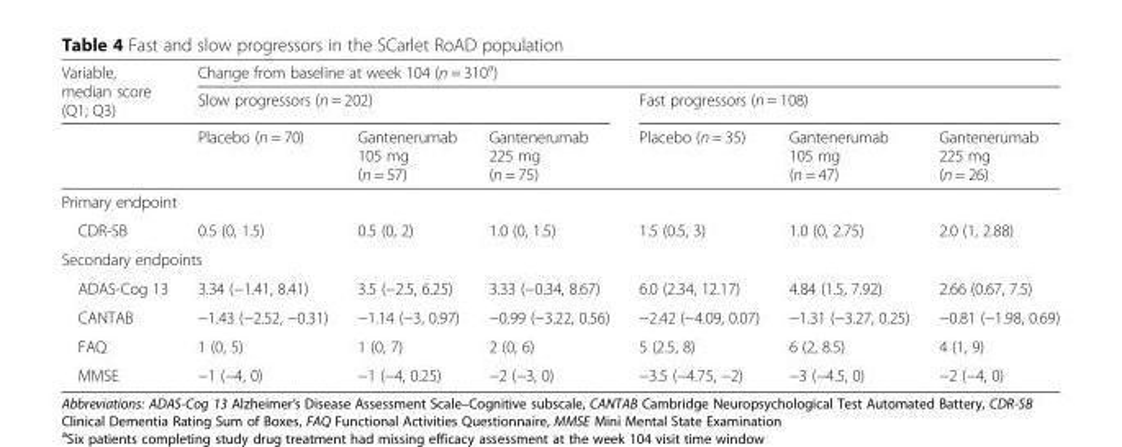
<table><thead><tr><td rowspan="3">Variable, median score (Q1; Q3)</td><td colspan="6">Change from baseline at week 104 (n = 310<sup>a</sup>)</td></tr><tr><td colspan="3">Slow progressors (n = 202)</td><td colspan="3">Fast progressors (n = 108)</td></tr><tr><td>Placebo (n = 70)</td><td>Gantenerumab 105 mg (n = 57)</td><td>Gantenerumab 225 mg (n = 75)</td><td>Placebo (n = 35)</td><td>Gantenerumab 105 mg (n = 47)</td><td>Gantenerumab 225 mg (n = 26)</td></tr></thead><tbody><tr><td colspan="7">Primary endpoint</td></tr><tr><td>CDR-SB</td><td>0.5 (0, 1.5)</td><td>0.5 (0, 2)</td><td>1.0 (0, 1.5)</td><td>1.5 (0.5, 3)</td><td>1.0 (0, 2.75)</td><td>2.0 (1, 2.88)</td></tr><tr><td colspan="7">Secondary endpoints</td></tr><tr><td>ADAS-Cog 13</td><td>3.34 (−1.41, 8.41)</td><td>3.5 (−2.5, 6.25)</td><td>3.33 (−0.34, 8.67)</td><td>6.0 (2.34, 12.17)</td><td>4.84 (1.5, 7.92)</td><td>2.66 (0.67, 7.5)</td></tr><tr><td>CANTAB</td><td>−1.43 (−2.52, −0.31)</td><td>−1.14 (−3, 0.97)</td><td>−0.99 (−3.22, 0.56)</td><td>−2.42 (−4.09, 0.07)</td><td>−1.31 (−3.27, 0.25)</td><td>−0.81 (−1.98, 0.69)</td></tr><tr><td>FAQ</td><td>1 (0, 5)</td><td>1 (0, 7)</td><td>2 (0, 6)</td><td>5 (2.5, 8)</td><td>6 (2, 8.5)</td><td>4 (1, 9)</td></tr><tr><td>MMSE</td><td>−1 (−4, 0)</td><td>−1 (−4, 0.25)</td><td>−2 (−3, 0)</td><td>−3.5 (−4.75, −2)</td><td>−3 (−4.5, 0)</td><td>−2 (−4, 0)</td></tr></tbody></table>